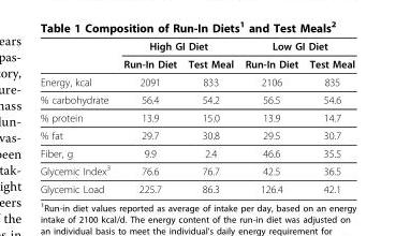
<table><thead><tr><td rowspan="2"></td><td colspan="2">High GI Diet</td><td colspan="2">Low GI Diet</td></tr><tr><td>Run-In Diet</td><td>Test Meal</td><td>Run-In Diet</td><td>Test Meal</td></tr></thead><tbody><tr><td>Energy, kcal</td><td>2091</td><td>833</td><td>2106</td><td>835</td></tr><tr><td>% carbohydrate</td><td>56.4</td><td>54.2</td><td>56.5</td><td>54.6</td></tr><tr><td>% protein</td><td>13.9</td><td>15.0</td><td>13.9</td><td>14.7</td></tr><tr><td>% fat</td><td>29.7</td><td>30.8</td><td>29.5</td><td>30.7</td></tr><tr><td>Fiber, g</td><td>9.9</td><td>2.4</td><td>46.6</td><td>35.5</td></tr><tr><td>Glycemic Index<sup>3</sup></td><td>76.6</td><td>76.7</td><td>42.5</td><td>36.5</td></tr><tr><td>Glycemic Load</td><td>225.7</td><td>86.3</td><td>126.4</td><td>42.1</td></tr></tbody></table>